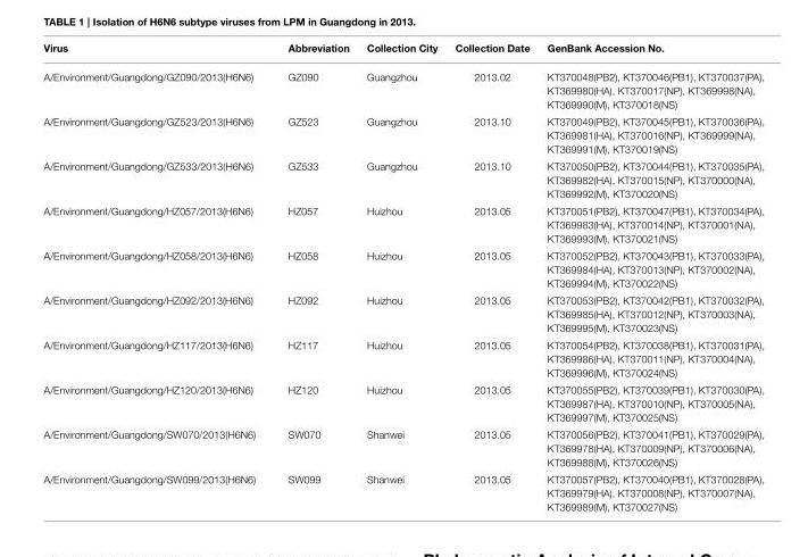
<table><thead><tr><td>Virus</td><td>Abbreviation</td><td>Collection City</td><td>Collection Date</td><td>GenBank Accession No.</td></tr></thead><tbody><tr><td>A/Environment/Guangdong/GZ090/2013(H6N6)</td><td>GZ090</td><td>Guangzhou</td><td>2013.02</td><td>KT370048(PB2), KT370046(PB1), KT370037(PA), KT369980(HA), KT370017(NP), KT369998(NA), KT369990(M), KT370018(NS)</td></tr><tr><td>A/Environment/Guangdong/GZ523/2013(H6N6)</td><td>GZ523</td><td>Guangzhou</td><td>2013.10</td><td>KT370049(PB2), KT370045(PB1), KT370036(PA), KT369981(HA), KT370016(NP), KT369999(NA), KT369991(M), KT370019(NS)</td></tr><tr><td>A/Environment/Guangdong/GZ533/2013(H6N6)</td><td>GZ533</td><td>Guangzhou</td><td>2013.10</td><td>KT370050(PB2), KT370044(PB1), KT370035(PA), KT369982(HA), KT370015(NP), KT370000(NA), KT369992(M), KT370020(NS)</td></tr><tr><td>A/Environment/Guangdong/HZ057/2013(H6N6)</td><td>HZ057</td><td>Huizhou</td><td>2013.05</td><td>KT370051(PB2), KT370047(PB1), KT370034(PA), KT369983(HA), KT370014(NP), KT370001(NA), KT369993(M), KT370021(NS)</td></tr><tr><td>A/Environment/Guangdong/HZ058/2013(H6N6)</td><td>HZ058</td><td>Huizhou</td><td>2013.05</td><td>KT370052(PB2), KT370043(PB1), KT370033(PA), KT369984(HA), KT370013(NP), KT370002(NA), KT369994(M), KT370022(NS)</td></tr><tr><td>A/Environment/Guangdong/HZ092/2013(H6N6)</td><td>HZ092</td><td>Huizhou</td><td>2013.05</td><td>KT370053(PB2), KT370042(PB1), KT370032(PA), KT369985(HA), KT370012(NP), KT370003(NA), KT369995(M), KT370023(NS)</td></tr><tr><td>A/Environment/Guangdong/HZ117/2013(H6N6)</td><td>HZ117</td><td>Huizhou</td><td>2013.05</td><td>KT370054(PB2), KT370038(PB1), KT370031(PA), KT369986(HA), KT370011(NP), KT370004(NA), KT369996(M), KT370024(NS)</td></tr><tr><td>A/Environment/Guangdong/HZ120/2013(H6N6)</td><td>HZ120</td><td>Huizhou</td><td>2013.05</td><td>KT370055(PB2), KT370039(PB1), KT370030(PA), KT369987(HA), KT370010(NP), KT370005(NA), KT369997(M), KT370025(NS)</td></tr><tr><td>A/Environment/Guangdong/SW070/2013(H6N6)</td><td>SW070</td><td>Shanwei</td><td>2013.05</td><td>KT370056(PB2), KT370041(PB1), KT370029(PA), KT369978(HA), KT370009(NP), KT370006(NA), KT369988(M), KT370026(NS)</td></tr><tr><td>A/Environment/Guangdong/SW099/2013(H6N6)</td><td>SW099</td><td>Shanwei</td><td>2013.05</td><td>KT370057(PB2), KT370040(PB1), KT370028(PA), KT369979(HA), KT370008(NP), KT370007(NA), KT369989(M), KT370027(NS)</td></tr></tbody></table>